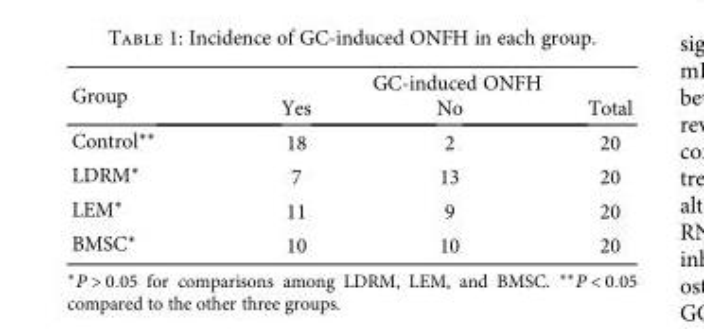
<table><thead><tr><td rowspan="2">Group</td><td colspan="3">GC-induced ONFH</td></tr><tr><td>Yes</td><td>No</td><td>Total</td></tr></thead><tbody><tr><td>Control∗∗</td><td>18</td><td>2</td><td>20</td></tr><tr><td>LDRM∗</td><td>7</td><td>13</td><td>20</td></tr><tr><td>LEM∗</td><td>11</td><td>9</td><td>20</td></tr><tr><td>BMSC∗</td><td>10</td><td>10</td><td>20</td></tr></tbody></table>